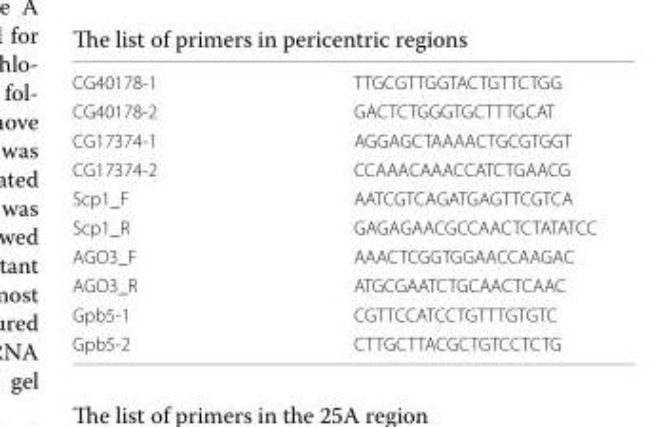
<table><tbody><tr><td>CG40178-1</td><td>TTGCGTTGGTACTGTTCTGG</td></tr><tr><td>CG40178-2</td><td>GACTCTGGGTGCTTTGCAT</td></tr><tr><td>CG17374-1</td><td>AGGAGCTAAAACTGCGTGGT</td></tr><tr><td>CG17374-2</td><td>CCAAACAAACCATCTGAACG</td></tr><tr><td>Scp1_F</td><td>AATCGTCAGATGAGTTCGTCA</td></tr><tr><td>Scp1_R</td><td>GAGAGAACGCCAACTCTATATCC</td></tr><tr><td>AGO3_F</td><td>AAACTCGGTGGAACCAAGAC</td></tr><tr><td>AGO3_R</td><td>ATGCGAATCTGCAACTCAAC</td></tr><tr><td>Gpb5-1</td><td>CGTTCCATCCTGTTTGTGTC</td></tr><tr><td>Gpb5-2</td><td>CTTGCTTACGCTGTCCTCTG</td></tr></tbody></table>